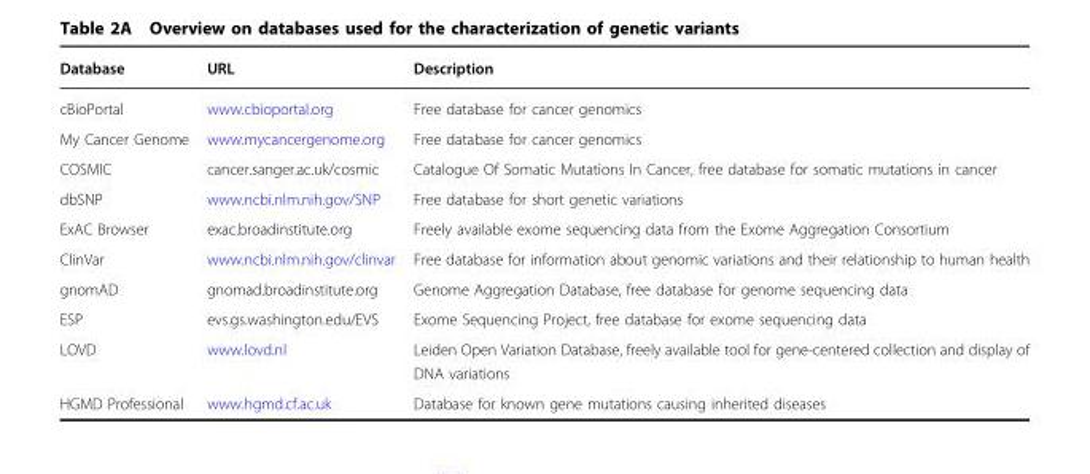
<table><thead><tr><td>Database</td><td>URL</td><td>Description</td></tr></thead><tbody><tr><td>cBioPortal</td><td>www.cbioportal.org</td><td>Free database for cancer genomics</td></tr><tr><td>My Cancer Genome</td><td>www.mycancergenome.org</td><td>Free database for cancer genomics</td></tr><tr><td>COSMIC</td><td>cancer.sanger.ac.uk/cosmic</td><td>Catalogue Of Somatic Mutations In Cancer, free database for somatic mutations in cancer</td></tr><tr><td>dbSNP</td><td>www.ncbi.nlm.nih.gov/SNP</td><td>Free database for short genetic variations</td></tr><tr><td>ExAC Browser</td><td>exac.broadinstitute.org</td><td>Freely available exome sequencing data from the Exome Aggregation Consortium</td></tr><tr><td>ClinVar</td><td>www.ncbi.nlm.nih.gov/clinvar</td><td>Free database for information about genomic variations and their relationship to human health</td></tr><tr><td>gnomAD</td><td>gnomad.broadinstitute.org</td><td>Genome Aggregation Database, free database for genome sequencing data</td></tr><tr><td>ESP</td><td>evs.gs.washington.edu/EVS</td><td>Exome Sequencing Project, free database for exome sequencing data</td></tr><tr><td>LOVD</td><td>www.lovd.nl</td><td>Leiden Open Variation Database, freely available tool for gene-centered collection and display of DNA variations</td></tr><tr><td>HGMD Professional</td><td>www.hgmd.cf.ac.uk</td><td>Database for known gene mutations causing inherited diseases</td></tr></tbody></table>